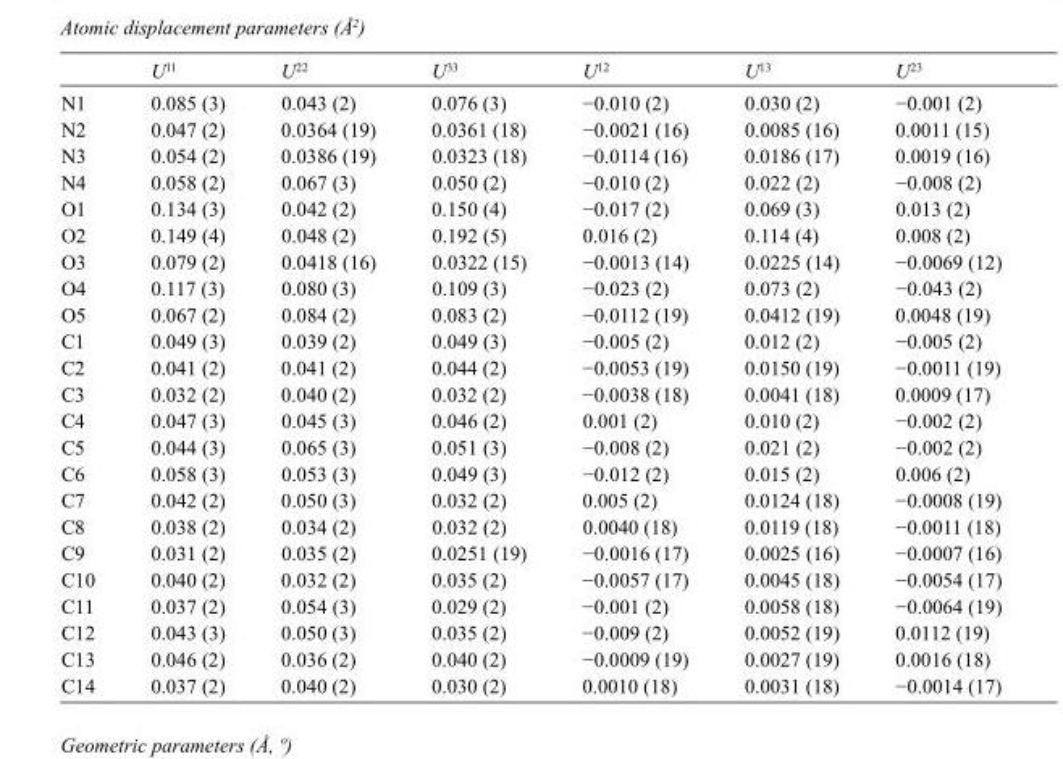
<table><thead><tr><td></td><td>U<sup>11</sup></td><td>U<sup>22</sup></td><td>U<sup>33</sup></td><td>U<sup>12</sup></td><td>U<sup>13</sup></td><td>U<sup>23</sup></td></tr></thead><tbody><tr><td>N1</td><td>0.085 (3)</td><td>0.043 (2)</td><td>0.076 (3)</td><td>−0.010 (2)</td><td>0.030 (2)</td><td>−0.001 (2)</td></tr><tr><td>N2</td><td>0.047 (2)</td><td>0.0364 (19)</td><td>0.0361 (18)</td><td>−0.0021 (16)</td><td>0.0085 (16)</td><td>0.0011 (15)</td></tr><tr><td>N3</td><td>0.054 (2)</td><td>0.0386 (19)</td><td>0.0323 (18)</td><td>−0.0114 (16)</td><td>0.0186 (17)</td><td>0.0019 (16)</td></tr><tr><td>N4</td><td>0.058 (2)</td><td>0.067 (3)</td><td>0.050 (2)</td><td>−0.010 (2)</td><td>0.022 (2)</td><td>−0.008 (2)</td></tr><tr><td>O1</td><td>0.134 (3)</td><td>0.042 (2)</td><td>0.150 (4)</td><td>−0.017 (2)</td><td>0.069 (3)</td><td>0.013 (2)</td></tr><tr><td>O2</td><td>0.149 (4)</td><td>0.048 (2)</td><td>0.192 (5)</td><td>0.016 (2)</td><td>0.114 (4)</td><td>0.008 (2)</td></tr><tr><td>O3</td><td>0.079 (2)</td><td>0.0418 (16)</td><td>0.0322 (15)</td><td>−0.0013 (14)</td><td>0.0225 (14)</td><td>−0.0069 (12)</td></tr><tr><td>O4</td><td>0.117 (3)</td><td>0.080 (3)</td><td>0.109 (3)</td><td>−0.023 (2)</td><td>0.073 (2)</td><td>−0.043 (2)</td></tr><tr><td>O5</td><td>0.067 (2)</td><td>0.084 (2)</td><td>0.083 (2)</td><td>−0.0112 (19)</td><td>0.0412 (19)</td><td>0.0048 (19)</td></tr><tr><td>C1</td><td>0.049 (3)</td><td>0.039 (2)</td><td>0.049 (3)</td><td>−0.005 (2)</td><td>0.012 (2)</td><td>−0.005 (2)</td></tr><tr><td>C2</td><td>0.041 (2)</td><td>0.041 (2)</td><td>0.044 (2)</td><td>−0.0053 (19)</td><td>0.0150 (19)</td><td>−0.0011 (19)</td></tr><tr><td>C3</td><td>0.032 (2)</td><td>0.040 (2)</td><td>0.032 (2)</td><td>−0.0038 (18)</td><td>0.0041 (18)</td><td>0.0009 (17)</td></tr><tr><td>C4</td><td>0.047 (3)</td><td>0.045 (3)</td><td>0.046 (2)</td><td>0.001 (2)</td><td>0.010 (2)</td><td>−0.002 (2)</td></tr><tr><td>C5</td><td>0.044 (3)</td><td>0.065 (3)</td><td>0.051 (3)</td><td>−0.008 (2)</td><td>0.021 (2)</td><td>−0.002 (2)</td></tr><tr><td>C6</td><td>0.058 (3)</td><td>0.053 (3)</td><td>0.049 (3)</td><td>−0.012 (2)</td><td>0.015 (2)</td><td>0.006 (2)</td></tr><tr><td>C7</td><td>0.042 (2)</td><td>0.050 (3)</td><td>0.032 (2)</td><td>0.005 (2)</td><td>0.0124 (18)</td><td>−0.0008 (19)</td></tr><tr><td>C8</td><td>0.038 (2)</td><td>0.034 (2)</td><td>0.032 (2)</td><td>0.0040 (18)</td><td>0.0119 (18)</td><td>−0.0011 (18)</td></tr><tr><td>C9</td><td>0.031 (2)</td><td>0.035 (2)</td><td>0.0251 (19)</td><td>−0.0016 (17)</td><td>0.0025 (16)</td><td>−0.0007 (16)</td></tr><tr><td>C10</td><td>0.040 (2)</td><td>0.032 (2)</td><td>0.035 (2)</td><td>−0.0057 (17)</td><td>0.0045 (18)</td><td>−0.0054 (17)</td></tr><tr><td>C11</td><td>0.037 (2)</td><td>0.054 (3)</td><td>0.029 (2)</td><td>−0.001 (2)</td><td>0.0058 (18)</td><td>−0.0064 (19)</td></tr><tr><td>C12</td><td>0.043 (3)</td><td>0.050 (3)</td><td>0.035 (2)</td><td>−0.009 (2)</td><td>0.0052 (19)</td><td>0.0112 (19)</td></tr><tr><td>C13</td><td>0.046 (2)</td><td>0.036 (2)</td><td>0.040 (2)</td><td>−0.0009 (19)</td><td>0.0027 (19)</td><td>0.0016 (18)</td></tr><tr><td>C14</td><td>0.037 (2)</td><td>0.040 (2)</td><td>0.030 (2)</td><td>0.0010 (18)</td><td>0.0031 (18)</td><td>−0.0014 (17)</td></tr></tbody></table>